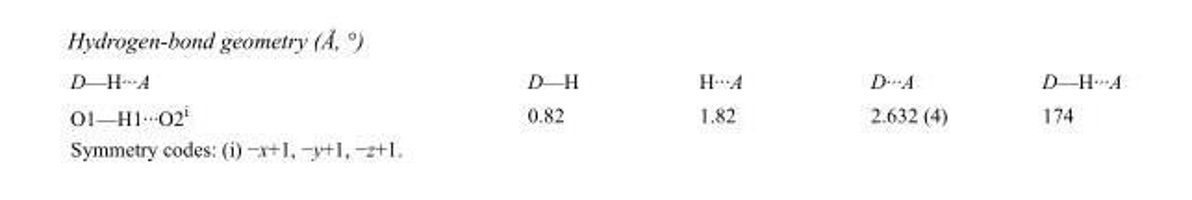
<table><tbody><tr><td>D—H···A</td><td>D—H</td><td>H···A</td><td>D···A</td><td>D—H···A</td></tr><tr><td>O1—H1···O2<sup>i</sup></td><td>0.82</td><td>1.82</td><td>2.632 (4)</td><td>174</td></tr></tbody></table>